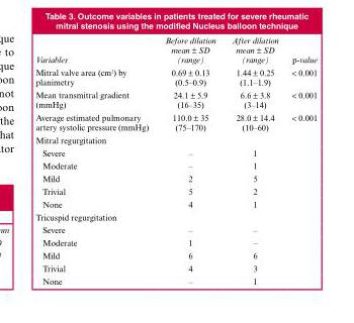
<table><thead><tr><td>Variables</td><td>Before dilation mean ± SD (range)</td><td>After dilation mean ± SD (range)</td><td>p-value</td></tr></thead><tbody><tr><td>Mitral valve area (cm<sup>2</sup>) by planimetry</td><td>0.69 ± 0.13 (0.5–0.9)</td><td>1.44 ± 0.25 (1.1–1.9)</td><td>&lt; 0.001</td></tr><tr><td>Mean transmitral gradient (mmHg)</td><td>24.1 ± 5.9 (16–35)</td><td>6.6 ± 3.8 (3–14)</td><td>&lt; 0.001</td></tr><tr><td>Average estimated pulmonary artery systolic pressure (mmHg)</td><td>110.0 ± 35 (75–170)</td><td>28.0 ± 14.4 (10–60)</td><td>&lt; 0.001</td></tr><tr><td colspan="4">Mitral regurgitation</td></tr><tr><td>Severe</td><td>–</td><td>1</td><td></td></tr><tr><td>Moderate</td><td>–</td><td>1</td><td></td></tr><tr><td>Mild</td><td>2</td><td>5</td><td></td></tr><tr><td>Trivial</td><td>5</td><td>2</td><td></td></tr><tr><td>None</td><td>4</td><td>1</td><td></td></tr><tr><td colspan="4">Tricuspid regurgitation</td></tr><tr><td>Severe</td><td>–</td><td>–</td><td></td></tr><tr><td>Moderate</td><td>1</td><td>–</td><td></td></tr><tr><td>Mild</td><td>6</td><td>6</td><td></td></tr><tr><td>Trivial</td><td>4</td><td>3</td><td></td></tr><tr><td>None</td><td>–</td><td>1</td><td></td></tr></tbody></table>